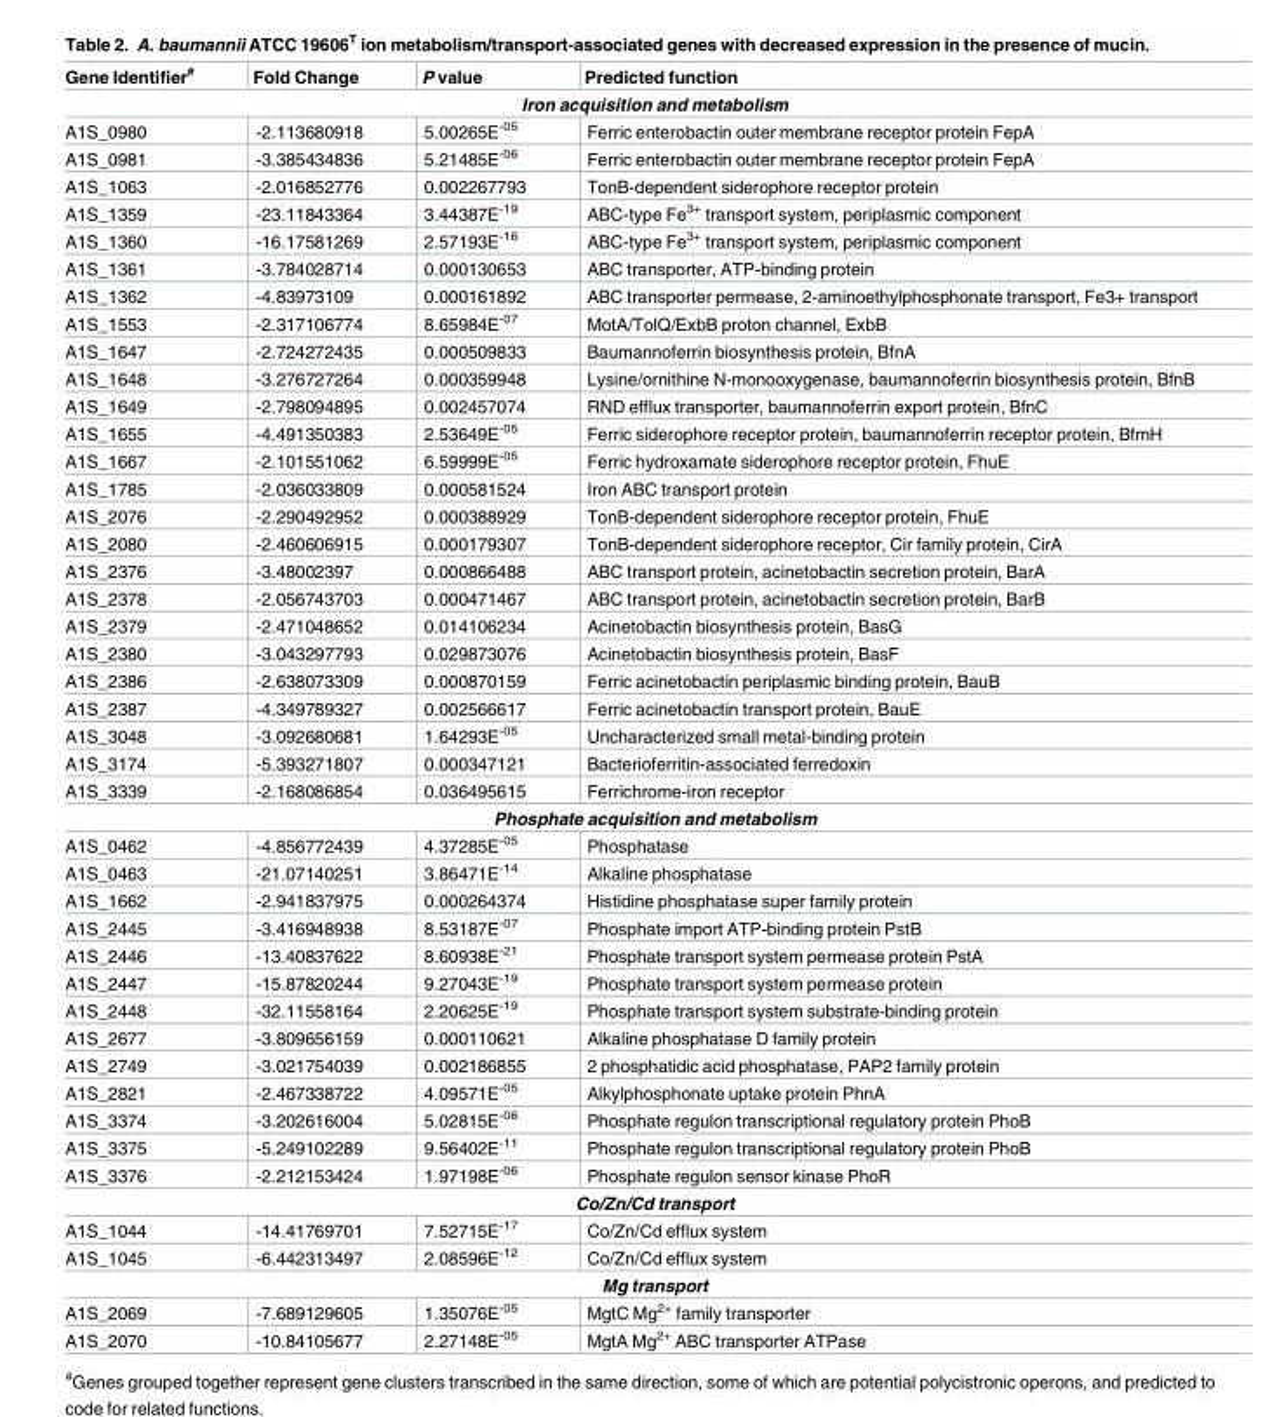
<table><thead><tr><td>Gene Identifier<sup>#</sup></td><td>Fold Change</td><td>P value</td><td>Predicted function</td></tr></thead><tbody><tr><td colspan="4">Iron acquisition and metabolism</td></tr><tr><td>A1S_0980</td><td>-2.113680918</td><td>5.00265E<sup>-05</sup></td><td>Ferric enterobactin outer membrane receptor protein FepA</td></tr><tr><td>A1S_0981</td><td>-3.385434836</td><td>5.21485E<sup>-06</sup></td><td>Ferric enterobactin outer membrane receptor protein FepA</td></tr><tr><td>A1S_1063</td><td>-2.016852776</td><td>0.002267793</td><td>TonB-dependent siderophore receptor protein</td></tr><tr><td>A1S_1359</td><td>-23.11843364</td><td>3.44387E<sup>-19</sup></td><td>ABC-type Fe<sup>3+</sup> transport system, periplasmic component</td></tr><tr><td>A1S_1360</td><td>-16.17581269</td><td>2.57193E<sup>-16</sup></td><td>ABC-type Fe<sup>3+</sup> transport system, periplasmic component</td></tr><tr><td>A1S_1361</td><td>-3.784028714</td><td>0.000130653</td><td>ABC transporter, ATP-binding protein</td></tr><tr><td>A1S_1362</td><td>-4.83973109</td><td>0.000161892</td><td>ABC transporter permease, 2-aminoethylphosphonate transport, Fe3+ transport</td></tr><tr><td>A1S_1553</td><td>-2.317106774</td><td>8.65984E<sup>-07</sup></td><td>MotA/TolQ/ExbB proton channel, ExbB</td></tr><tr><td>A1S_1647</td><td>-2.724272435</td><td>0.000509833</td><td>Baumannoferrin biosynthesis protein, BfnA</td></tr><tr><td>A1S_1648</td><td>-3.276727264</td><td>0.000359948</td><td>Lysine/ornithine N-monooxygenase, baumannoferrin biosynthesis protein, BfnB</td></tr><tr><td>A1S_1649</td><td>-2.798094895</td><td>0.002457074</td><td>RND efflux transporter, baumannoferrin export protein, BfnC</td></tr><tr><td>A1S_1655</td><td>-4.491350383</td><td>2.53649E<sup>-05</sup></td><td>Ferric siderophore receptor protein, baumannoferrin receptor protein, BfmH</td></tr><tr><td>A1S_1667</td><td>-2.101551062</td><td>6.59999E<sup>-05</sup></td><td>Ferric hydroxamate siderophore receptor protein, FhuE</td></tr><tr><td>A1S_1785</td><td>-2.036033809</td><td>0.000581524</td><td>Iron ABC transport protein</td></tr><tr><td>A1S_2076</td><td>-2.290492952</td><td>0.000388929</td><td>TonB-dependent siderophore receptor protein, FhuE</td></tr><tr><td>A1S_2080</td><td>-2.460606915</td><td>0.000179307</td><td>TonB-dependent siderophore receptor, Cir family protein, CirA</td></tr><tr><td>A1S_2376</td><td>-3.48002397</td><td>0.000866488</td><td>ABC transport protein, acinetobactin secretion protein, BarA</td></tr><tr><td>A1S_2378</td><td>-2.056743703</td><td>0.000471467</td><td>ABC transport protein, acinetobactin secretion protein, BarB</td></tr><tr><td>A1S_2379</td><td>-2.471048652</td><td>0.014106234</td><td>Acinetobactin biosynthesis protein, BasG</td></tr><tr><td>A1S_2380</td><td>-3.043297793</td><td>0.029873076</td><td>Acinetobactin biosynthesis protein, BasF</td></tr><tr><td>A1S_2386</td><td>-2.638073309</td><td>0.000870159</td><td>Ferric acinetobactin periplasmic binding protein, BauB</td></tr><tr><td>A1S_2387</td><td>-4.349789327</td><td>0.002566617</td><td>Ferric acinetobactin transport protein, BauE</td></tr><tr><td>A1S_3048</td><td>-3.092680681</td><td>1.64293E<sup>-05</sup></td><td>Uncharacterized small metal-binding protein</td></tr><tr><td>A1S_3174</td><td>-5.393271807</td><td>0.000347121</td><td>Bacterioferritin-associated ferredoxin</td></tr><tr><td>A1S_3339</td><td>-2.168086854</td><td>0.036495615</td><td>Ferrichrome-iron receptor</td></tr><tr><td colspan="4">Phosphate acquisition and metabolism</td></tr><tr><td>A1S_0462</td><td>-4.856772439</td><td>4.37285E<sup>-05</sup></td><td>Phosphatase</td></tr><tr><td>A1S_0463</td><td>-21.07140251</td><td>3.86471E<sup>-14</sup></td><td>Alkaline phosphatase</td></tr><tr><td>A1S_1662</td><td>-2.941837975</td><td>0.000264374</td><td>Histidine phosphatase super family protein</td></tr><tr><td>A1S_2445</td><td>-3.416948938</td><td>8.53187E<sup>-07</sup></td><td>Phosphate import ATP-binding protein PstB</td></tr><tr><td>A1S_2446</td><td>-13.40837622</td><td>8.60938E<sup>-21</sup></td><td>Phosphate transport system permease protein PstA</td></tr><tr><td>A1S_2447</td><td>-15.87820244</td><td>9.27043E<sup>-19</sup></td><td>Phosphate transport system permease protein</td></tr><tr><td>A1S_2448</td><td>-32.11558164</td><td>2.20625E<sup>-19</sup></td><td>Phosphate transport system substrate-binding protein</td></tr><tr><td>A1S_2677</td><td>-3.809656159</td><td>0.000110621</td><td>Alkaline phosphatase D family protein</td></tr><tr><td>A1S_2749</td><td>-3.021754039</td><td>0.002186855</td><td>2 phosphatidic acid phosphatase, PAP2 family protein</td></tr><tr><td>A1S_2821</td><td>-2.467338722</td><td>4.09571E<sup>-05</sup></td><td>Alkylphosphonate uptake protein PhnA</td></tr><tr><td>A1S_3374</td><td>-3.202616004</td><td>5.02815E<sup>-06</sup></td><td>Phosphate regulon transcriptional regulatory protein PhoB</td></tr><tr><td>A1S_3375</td><td>-5.249102289</td><td>9.56402E<sup>-11</sup></td><td>Phosphate regulon transcriptional regulatory protein PhoB</td></tr><tr><td>A1S_3376</td><td>-2.212153424</td><td>1.97198E<sup>-06</sup></td><td>Phosphate regulon sensor kinase PhoR</td></tr><tr><td colspan="4">Co/Zn/Cd transport</td></tr><tr><td>A1S_1044</td><td>-14.41769701</td><td>7.52715E<sup>-17</sup></td><td>Co/Zn/Cd efflux system</td></tr><tr><td>A1S_1045</td><td>-6.442313497</td><td>2.08596E<sup>-12</sup></td><td>Co/Zn/Cd efflux system</td></tr><tr><td colspan="4">Mg transport</td></tr><tr><td>A1S_2069</td><td>-7.689129605</td><td>1.35076E<sup>-05</sup></td><td>MgtC Mg<sup>2+</sup> family transporter</td></tr><tr><td>A1S_2070</td><td>-10.84105677</td><td>2.27148E<sup>-05</sup></td><td>MgtA Mg<sup>2+</sup> ABC transporter ATPase</td></tr></tbody></table>